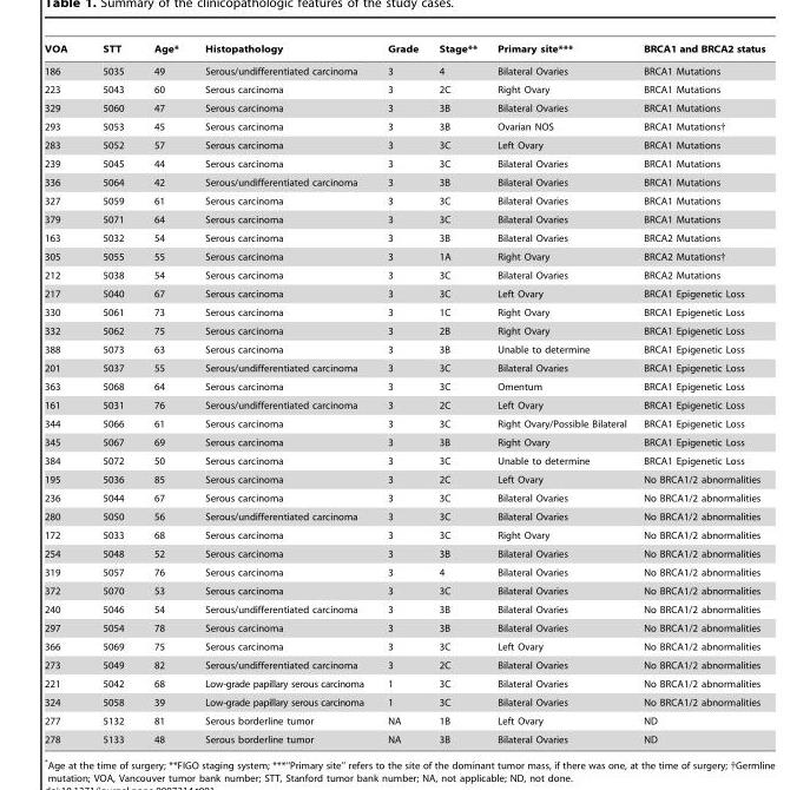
<table><thead><tr><td>VOA</td><td>STT</td><td>Age*</td><td>Histopathology</td><td>Grade</td><td>Stage**</td><td>Primary site***</td><td>BRCA1 and BRCA2 status</td></tr></thead><tbody><tr><td>186</td><td>5035</td><td>49</td><td>Serous/undifferentiated carcinoma</td><td>3</td><td>4</td><td>Bilateral Ovaries</td><td>BRCA1 Mutations</td></tr><tr><td>223</td><td>5043</td><td>60</td><td>Serous carcinoma</td><td>3</td><td>2C</td><td>Right Ovary</td><td>BRCA1 Mutations</td></tr><tr><td>329</td><td>5060</td><td>47</td><td>Serous carcinoma</td><td>3</td><td>3B</td><td>Bilateral Ovaries</td><td>BRCA1 Mutations</td></tr><tr><td>293</td><td>5053</td><td>45</td><td>Serous carcinoma</td><td>3</td><td>3B</td><td>Ovarian NOS</td><td>BRCA1 Mutations†</td></tr><tr><td>283</td><td>5052</td><td>57</td><td>Serous carcinoma</td><td>3</td><td>3C</td><td>Left Ovary</td><td>BRCA1 Mutations</td></tr><tr><td>239</td><td>5045</td><td>44</td><td>Serous carcinoma</td><td>3</td><td>3C</td><td>Bilateral Ovaries</td><td>BRCA1 Mutations</td></tr><tr><td>336</td><td>5064</td><td>42</td><td>Serous/undifferentiated carcinoma</td><td>3</td><td>3B</td><td>Bilateral Ovaries</td><td>BRCA1 Mutations</td></tr><tr><td>327</td><td>5059</td><td>61</td><td>Serous carcinoma</td><td>3</td><td>3C</td><td>Bilateral Ovaries</td><td>BRCA1 Mutations</td></tr><tr><td>379</td><td>5071</td><td>64</td><td>Serous carcinoma</td><td>3</td><td>3C</td><td>Bilateral Ovaries</td><td>BRCA1 Mutations</td></tr><tr><td>163</td><td>5032</td><td>54</td><td>Serous carcinoma</td><td>3</td><td>3B</td><td>Bilateral Ovaries</td><td>BRCA2 Mutations</td></tr><tr><td>305</td><td>5055</td><td>55</td><td>Serous carcinoma</td><td>3</td><td>1A</td><td>Right Ovary</td><td>BRCA2 Mutations†</td></tr><tr><td>212</td><td>5038</td><td>54</td><td>Serous carcinoma</td><td>3</td><td>3C</td><td>Bilateral Ovaries</td><td>BRCA2 Mutations</td></tr><tr><td>217</td><td>5040</td><td>67</td><td>Serous carcinoma</td><td>3</td><td>3C</td><td>Left Ovary</td><td>BRCA1 Epigenetic Loss</td></tr><tr><td>330</td><td>5061</td><td>73</td><td>Serous carcinoma</td><td>3</td><td>1C</td><td>Right Ovary</td><td>BRCA1 Epigenetic Loss</td></tr><tr><td>332</td><td>5062</td><td>75</td><td>Serous carcinoma</td><td>3</td><td>2B</td><td>Right Ovary</td><td>BRCA1 Epigenetic Loss</td></tr><tr><td>388</td><td>5073</td><td>63</td><td>Serous carcinoma</td><td>3</td><td>3B</td><td>Unable to determine</td><td>BRCA1 Epigenetic Loss</td></tr><tr><td>201</td><td>5037</td><td>55</td><td>Serous/undifferentiated carcinoma</td><td>3</td><td>3C</td><td>Bilateral Ovaries</td><td>BRCA1 Epigenetic Loss</td></tr><tr><td>363</td><td>5068</td><td>64</td><td>Serous carcinoma</td><td>3</td><td>3C</td><td>Omentum</td><td>BRCA1 Epigenetic Loss</td></tr><tr><td>161</td><td>5031</td><td>76</td><td>Serous/undifferentiated carcinoma</td><td>3</td><td>2C</td><td>Left Ovary</td><td>BRCA1 Epigenetic Loss</td></tr><tr><td>344</td><td>5066</td><td>61</td><td>Serous carcinoma</td><td>3</td><td>3C</td><td>Right Ovary/Possible Bilateral</td><td>BRCA1 Epigenetic Loss</td></tr><tr><td>345</td><td>5067</td><td>69</td><td>Serous carcinoma</td><td>3</td><td>3B</td><td>Right Ovary</td><td>BRCA1 Epigenetic Loss</td></tr><tr><td>384</td><td>5072</td><td>50</td><td>Serous carcinoma</td><td>3</td><td>3C</td><td>Unable to determine</td><td>BRCA1 Epigenetic Loss</td></tr><tr><td>195</td><td>5036</td><td>85</td><td>Serous carcinoma</td><td>3</td><td>2C</td><td>Left Ovary</td><td>No BRCA1/2 abnormalities</td></tr><tr><td>236</td><td>5044</td><td>67</td><td>Serous carcinoma</td><td>3</td><td>3C</td><td>Bilateral Ovaries</td><td>No BRCA1/2 abnormalities</td></tr><tr><td>280</td><td>5050</td><td>56</td><td>Serous/undifferentiated carcinoma</td><td>3</td><td>3C</td><td>Bilateral Ovaries</td><td>No BRCA1/2 abnormalities</td></tr><tr><td>172</td><td>5033</td><td>68</td><td>Serous carcinoma</td><td>3</td><td>3C</td><td>Right Ovary</td><td>No BRCA1/2 abnormalities</td></tr><tr><td>254</td><td>5048</td><td>52</td><td>Serous carcinoma</td><td>3</td><td>3B</td><td>Bilateral Ovaries</td><td>No BRCA1/2 abnormalities</td></tr><tr><td>319</td><td>5057</td><td>76</td><td>Serous carcinoma</td><td>3</td><td>4</td><td>Bilateral Ovaries</td><td>No BRCA1/2 abnormalities</td></tr><tr><td>372</td><td>5070</td><td>53</td><td>Serous carcinoma</td><td>3</td><td>3C</td><td>Bilateral Ovaries</td><td>No BRCA1/2 abnormalities</td></tr><tr><td>240</td><td>5046</td><td>54</td><td>Serous/undifferentiated carcinoma</td><td>3</td><td>3B</td><td>Bilateral Ovaries</td><td>No BRCA1/2 abnormalities</td></tr><tr><td>297</td><td>5054</td><td>78</td><td>Serous carcinoma</td><td>3</td><td>3B</td><td>Bilateral Ovaries</td><td>No BRCA1/2 abnormalities</td></tr><tr><td>366</td><td>5069</td><td>75</td><td>Serous carcinoma</td><td>3</td><td>3C</td><td>Left Ovary</td><td>No BRCA1/2 abnormalities</td></tr><tr><td>273</td><td>5049</td><td>82</td><td>Serous/undifferentiated carcinoma</td><td>3</td><td>2C</td><td>Bilateral Ovaries</td><td>No BRCA1/2 abnormalities</td></tr><tr><td>221</td><td>5042</td><td>68</td><td>Low-grade papillary serous carcinoma</td><td>1</td><td>3C</td><td>Bilateral Ovaries</td><td>No BRCA1/2 abnormalities</td></tr><tr><td>324</td><td>5058</td><td>39</td><td>Low-grade papillary serous carcinoma</td><td>1</td><td>3C</td><td>Bilateral Ovaries</td><td>No BRCA1/2 abnormalities</td></tr><tr><td>277</td><td>5132</td><td>81</td><td>Serous borderline tumor</td><td>NA</td><td>1B</td><td>Left Ovary</td><td>ND</td></tr><tr><td>278</td><td>5133</td><td>48</td><td>Serous borderline tumor</td><td>NA</td><td>3B</td><td>Bilateral Ovaries</td><td>ND</td></tr></tbody></table>